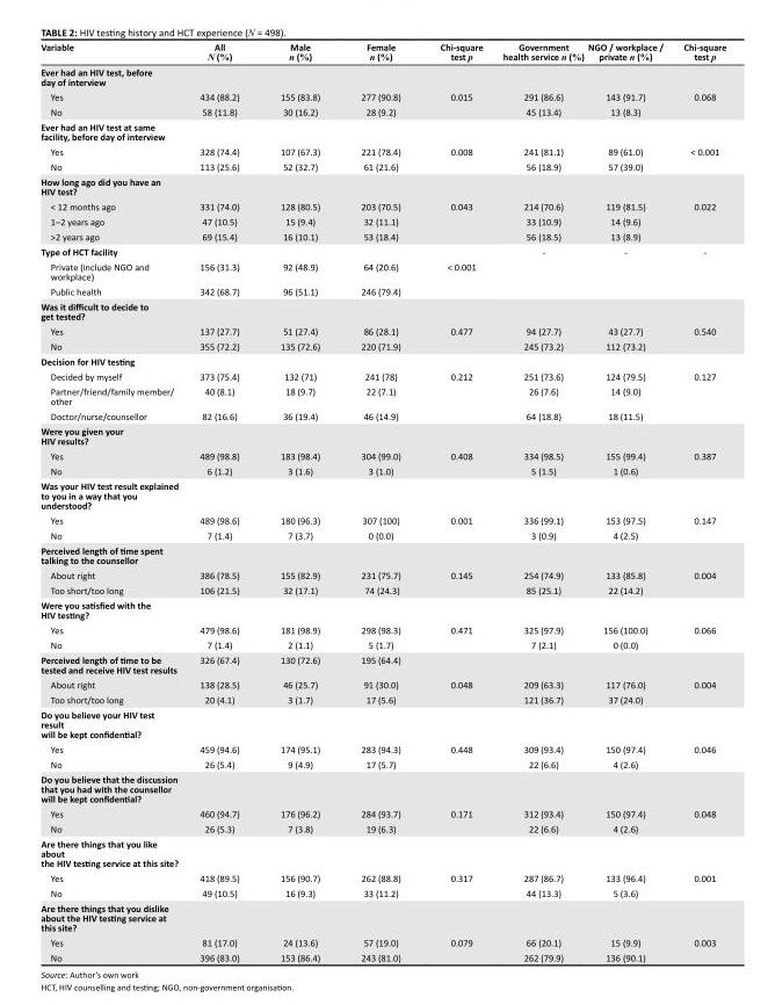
<table><thead><tr><td>Variable</td><td>All N (%)</td><td>Male n (%)</td><td>Female n (%)</td><td>Chi-square test p</td><td>Government health service n (%)</td><td>NGO / workplace / private n (%)</td><td>Chi-square test p</td></tr></thead><tbody><tr><td colspan="8">Ever had an HIV test, before day of interview</td></tr><tr><td>Yes</td><td>434 (88.2)</td><td>155 (83.8)</td><td>277 (90.8)</td><td>0.015</td><td>291 (86.6)</td><td>143 (91.7)</td><td>0.068</td></tr><tr><td>No</td><td>58 (11.8)</td><td>30 (16.2)</td><td>28 (9.2)</td><td></td><td>45 (13.4)</td><td>13 (8.3)</td><td></td></tr><tr><td colspan="8">Ever had an HIV test at same facility, before day of interview</td></tr><tr><td>Yes</td><td>328 (74.4)</td><td>107 (67.3)</td><td>221 (78.4)</td><td>0.008</td><td>241 (81.1)</td><td>89 (61.0)</td><td>&lt; 0.001</td></tr><tr><td>No</td><td>113 (25.6)</td><td>52 (32.7)</td><td>61 (21.6)</td><td></td><td>56 (18.9)</td><td>57 (39.0)</td><td></td></tr><tr><td colspan="8">How long ago did you have an HIV test?</td></tr><tr><td>&lt; 12 months ago</td><td>331 (74.0)</td><td>128 (80.5)</td><td>203 (70.5)</td><td>0.043</td><td>214 (70.6)</td><td>119 (81.5)</td><td>0.022</td></tr><tr><td>1–2 years ago</td><td>47 (10.5)</td><td>15 (9.4)</td><td>32 (11.1)</td><td></td><td>33 (10.9)</td><td>14 (9.6)</td><td></td></tr><tr><td>&gt;2 years ago</td><td>69 (15.4)</td><td>16 (10.1)</td><td>53 (18.4)</td><td></td><td>56 (18.5)</td><td>13 (8.9)</td><td></td></tr><tr><td>Type of HCT facility</td><td></td><td></td><td></td><td></td><td>-</td><td>-</td><td>-</td></tr><tr><td>Private (include NGO and workplace)</td><td>156 (31.3)</td><td>92 (48.9)</td><td>64 (20.6)</td><td>&lt; 0.001</td><td></td><td></td><td></td></tr><tr><td>Public health</td><td>342 (68.7)</td><td>96 (51.1)</td><td>246 (79.4)</td><td></td><td></td><td></td><td></td></tr><tr><td colspan="8">Was it difficult to decide to get tested?</td></tr><tr><td>Yes</td><td>137 (27.7)</td><td>51 (27.4)</td><td>86 (28.1)</td><td>0.477</td><td>94 (27.7)</td><td>43 (27.7)</td><td>0.540</td></tr><tr><td>No</td><td>355 (72.2)</td><td>135 (72.6)</td><td>220 (71.9)</td><td></td><td>245 (73.2)</td><td>112 (73.2)</td><td></td></tr><tr><td colspan="8">Decision for HIV testing</td></tr><tr><td>Decided by myself</td><td>373 (75.4)</td><td>132 (71)</td><td>241 (78)</td><td>0.212</td><td>251 (73.6)</td><td>124 (79.5)</td><td>0.127</td></tr><tr><td>Partner/friend/family member/ other</td><td>40 (8.1)</td><td>18 (9.7)</td><td>22 (7.1)</td><td></td><td>26 (7.6)</td><td>14 (9.0)</td><td></td></tr><tr><td>Doctor/nurse/counsellor</td><td>82 (16.6)</td><td>36 (19.4)</td><td>46 (14.9)</td><td></td><td>64 (18.8)</td><td>18 (11.5)</td><td></td></tr><tr><td colspan="8">Were you given your HIV results?</td></tr><tr><td>Yes</td><td>489 (98.8)</td><td>183 (98.4)</td><td>304 (99.0)</td><td>0.408</td><td>334 (98.5)</td><td>155 (99.4)</td><td>0.387</td></tr><tr><td>No</td><td>6 (1.2)</td><td>3 (1.6)</td><td>3 (1.0)</td><td></td><td>5 (1.5)</td><td>1 (0.6)</td><td></td></tr><tr><td colspan="8">Was your HIV test result explained to you in a way that you understood?</td></tr><tr><td>Yes</td><td>489 (98.6)</td><td>180 (96.3)</td><td>307 (100)</td><td>0.001</td><td>336 (99.1)</td><td>153 (97.5)</td><td>0.147</td></tr><tr><td>No</td><td>7 (1.4)</td><td>7 (3.7)</td><td>0 (0.0)</td><td></td><td>3 (0.9)</td><td>4 (2.5)</td><td></td></tr><tr><td colspan="8">Perceived length of time spent talking to the counsellor</td></tr><tr><td>About right</td><td>386 (78.5)</td><td>155 (82.9)</td><td>231 (75.7)</td><td>0.145</td><td>254 (74.9)</td><td>133 (85.8)</td><td>0.004</td></tr><tr><td>Too short/too long</td><td>106 (21.5)</td><td>32 (17.1)</td><td>74 (24.3)</td><td></td><td>85 (25.1)</td><td>22 (14.2)</td><td></td></tr><tr><td colspan="8">Were you satisfied with the HIV testing?</td></tr><tr><td>Yes</td><td>479 (98.6)</td><td>181 (98.9)</td><td>298 (98.3)</td><td>0.471</td><td>325 (97.9)</td><td>156 (100.0)</td><td>0.066</td></tr><tr><td>No</td><td>7 (1.4)</td><td>2 (1.1)</td><td>5 (1.7)</td><td></td><td>7 (2.1)</td><td>0 (0.0)</td><td></td></tr><tr><td>Perceived length of time to be tested and receive HIV test results</td><td>326 (67.4)</td><td>130 (72.6)</td><td>195 (64.4)</td><td></td><td></td><td></td><td></td></tr><tr><td>About right</td><td>138 (28.5)</td><td>46 (25.7)</td><td>91 (30.0)</td><td>0.048</td><td>209 (63.3)</td><td>117 (76.0)</td><td>0.004</td></tr><tr><td>Too short/too long</td><td>20 (4.1)</td><td>3 (1.7)</td><td>17 (5.6)</td><td></td><td>121 (36.7)</td><td>37 (24.0)</td><td></td></tr><tr><td colspan="8">Do you believe your HIV test result will be kept confidential?</td></tr><tr><td>Yes</td><td>459 (94.6)</td><td>174 (95.1)</td><td>283 (94.3)</td><td>0.448</td><td>309 (93.4)</td><td>150 (97.4)</td><td>0.046</td></tr><tr><td>No</td><td>26 (5.4)</td><td>9 (4.9)</td><td>17 (5.7)</td><td></td><td>22 (6.6)</td><td>4 (2.6)</td><td></td></tr><tr><td colspan="8">Do you believe that the discussion that you had with the counsellor will be kept confidential?</td></tr><tr><td>Yes</td><td>460 (94.7)</td><td>176 (96.2)</td><td>284 (93.7)</td><td>0.171</td><td>312 (93.4)</td><td>150 (97.4)</td><td>0.048</td></tr><tr><td>No</td><td>26 (5.3)</td><td>7 (3.8)</td><td>19 (6.3)</td><td></td><td>22 (6.6)</td><td>4 (2.6)</td><td></td></tr><tr><td colspan="8">Are there things that you like about the HIV testing service at this site?</td></tr><tr><td>Yes</td><td>418 (89.5)</td><td>156 (90.7)</td><td>262 (88.8)</td><td>0.317</td><td>287 (86.7)</td><td>133 (96.4)</td><td>0.001</td></tr><tr><td>No</td><td>49 (10.5)</td><td>16 (9.3)</td><td>33 (11.2)</td><td></td><td>44 (13.3)</td><td>5 (3.6)</td><td></td></tr><tr><td colspan="8">Are there things that you dislike about the HIV testing service at this site?</td></tr><tr><td>Yes</td><td>81 (17.0)</td><td>24 (13.6)</td><td>57 (19.0)</td><td>0.079</td><td>66 (20.1)</td><td>15 (9.9)</td><td>0.003</td></tr><tr><td>No</td><td>396 (83.0)</td><td>153 (86.4)</td><td>243 (81.0)</td><td></td><td>262 (79.9)</td><td>136 (90.1)</td><td></td></tr></tbody></table>